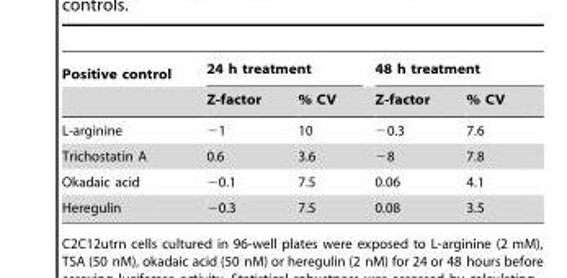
<table><thead><tr><td rowspan="2">Positive control</td><td colspan="2">24 h treatment</td><td colspan="2">48 h treatment</td></tr><tr><td>Z-factor</td><td>% CV</td><td>Z-factor</td><td>% CV</td></tr></thead><tbody><tr><td>L-arginine</td><td>−1</td><td>10</td><td>−0.3</td><td>7.6</td></tr><tr><td>Trichostatin A</td><td>0.6</td><td>3.6</td><td>−8</td><td>7.8</td></tr><tr><td>Okadaic acid</td><td>−0.1</td><td>7.5</td><td>0.06</td><td>4.1</td></tr><tr><td>Heregulin</td><td>−0.3</td><td>7.5</td><td>0.08</td><td>3.5</td></tr></tbody></table>